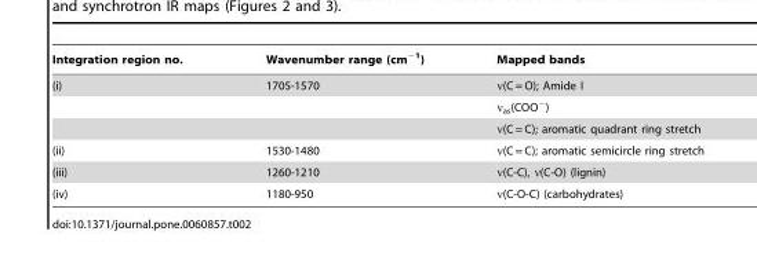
<table><thead><tr><td>Integration region no.</td><td>Wavenumber range (cm<sup>−1</sup>)</td><td>Mapped bands</td></tr></thead><tbody><tr><td rowspan="3">(i)</td><td>1705-1570</td><td>ν(C = O); Amide I</td></tr><tr><td></td><td>ν<sub>as</sub>(COO<sup>−</sup>)</td></tr><tr><td></td><td>ν(C = C); aromatic quadrant ring stretch</td></tr><tr><td>(ii)</td><td>1530-1480</td><td>ν(C = C); aromatic semicircle ring stretch</td></tr><tr><td>(iii)</td><td>1260-1210</td><td>ν(C-C), ν(C-O) (lignin)</td></tr><tr><td>(iv)</td><td>1180-950</td><td>ν(C-O-C) (carbohydrates)</td></tr></tbody></table>